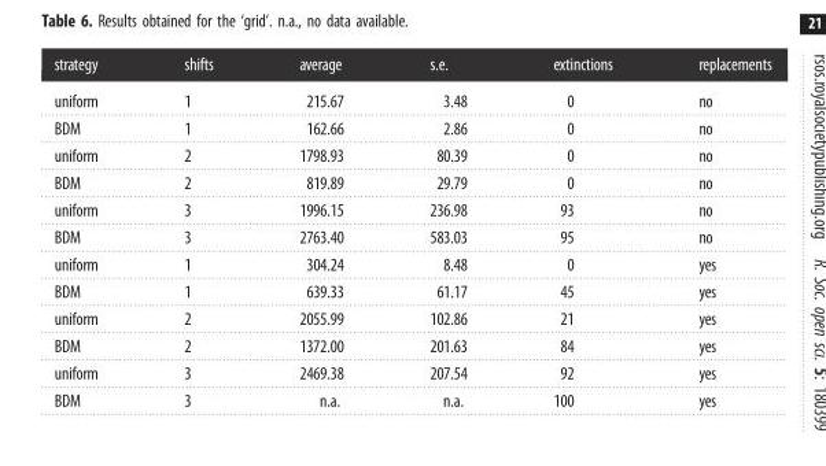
<table><thead><tr><td>strategy</td><td>shifts</td><td>average</td><td>s.e.</td><td>extinctions</td><td>replacements</td></tr></thead><tbody><tr><td>uniform</td><td>1</td><td>215.67</td><td>3.48</td><td>0</td><td>no</td></tr><tr><td>BDM</td><td>1</td><td>162.66</td><td>2.86</td><td>0</td><td>no</td></tr><tr><td>uniform</td><td>2</td><td>1798.93</td><td>80.39</td><td>0</td><td>no</td></tr><tr><td>BDM</td><td>2</td><td>819.89</td><td>29.79</td><td>0</td><td>no</td></tr><tr><td>uniform</td><td>3</td><td>1996.15</td><td>236.98</td><td>93</td><td>no</td></tr><tr><td>BDM</td><td>3</td><td>2763.40</td><td>583.03</td><td>95</td><td>no</td></tr><tr><td>uniform</td><td>1</td><td>304.24</td><td>8.48</td><td>0</td><td>yes</td></tr><tr><td>BDM</td><td>1</td><td>639.33</td><td>61.17</td><td>45</td><td>yes</td></tr><tr><td>uniform</td><td>2</td><td>2055.99</td><td>102.86</td><td>21</td><td>yes</td></tr><tr><td>BDM</td><td>2</td><td>1372.00</td><td>201.63</td><td>84</td><td>yes</td></tr><tr><td>uniform</td><td>3</td><td>2469.38</td><td>207.54</td><td>92</td><td>yes</td></tr><tr><td>BDM</td><td>3</td><td>n.a.</td><td>n.a.</td><td>100</td><td>yes</td></tr></tbody></table>